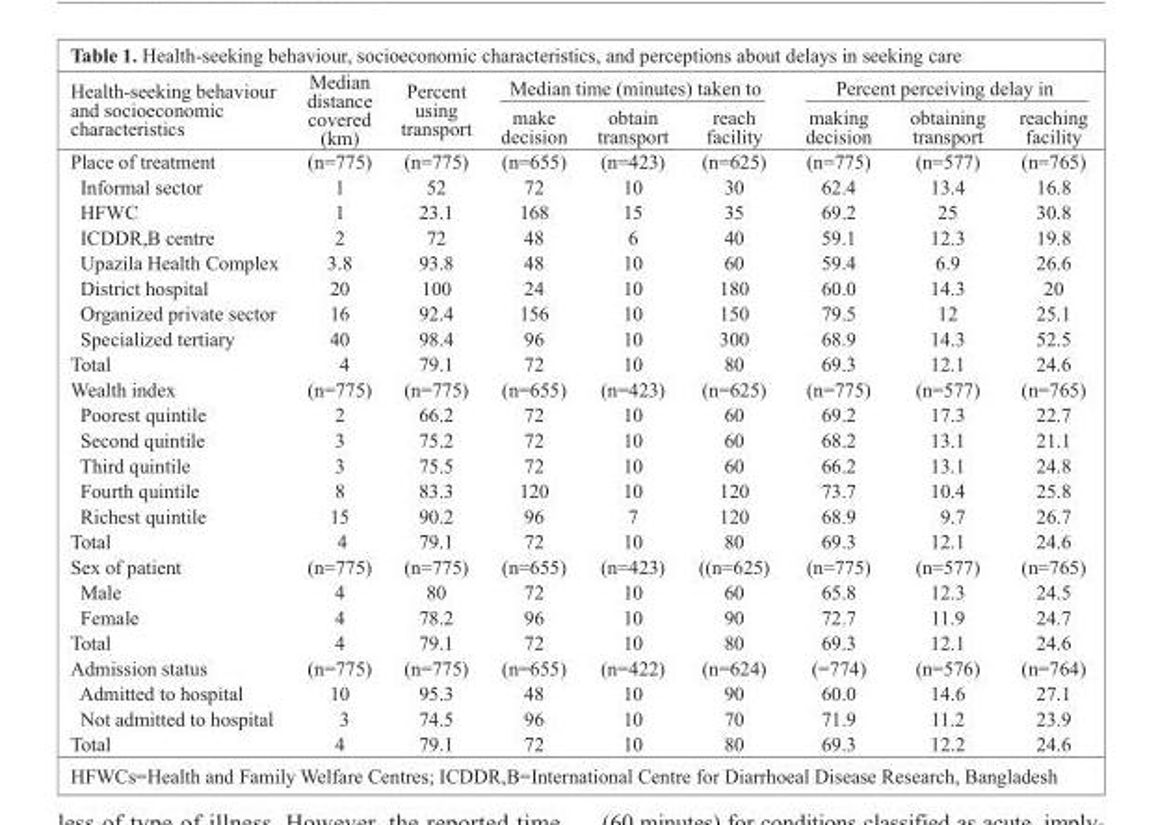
<table><thead><tr><td rowspan="2">Health-seeking behaviour and socioeconomic characteristics</td><td rowspan="2">Median distance covered (km)</td><td rowspan="2">Percent using transport</td><td colspan="3">Median time (minutes) taken to</td><td colspan="3">Percent perceiving delay in</td></tr><tr><td>make decision</td><td>obtain transport</td><td>reach facility</td><td>making decision</td><td>obtaining transport</td><td>reaching facility</td></tr></thead><tbody><tr><td>Place of treatment</td><td>(n=775)</td><td>(n=775)</td><td>(n=655)</td><td>(n=423)</td><td>(n=625)</td><td>(n=775)</td><td>(n=577)</td><td>(n=765)</td></tr><tr><td>Informal sector</td><td>1</td><td>52</td><td>72</td><td>10</td><td>30</td><td>62.4</td><td>13.4</td><td>16.8</td></tr><tr><td>HFWC</td><td>1</td><td>23.1</td><td>168</td><td>15</td><td>35</td><td>69.2</td><td>25</td><td>30.8</td></tr><tr><td>ICDDR,B centre</td><td>2</td><td>72</td><td>48</td><td>6</td><td>40</td><td>59.1</td><td>12.3</td><td>19.8</td></tr><tr><td>Upazila Health Complex</td><td>3.8</td><td>93.8</td><td>48</td><td>10</td><td>60</td><td>59.4</td><td>6.9</td><td>26.6</td></tr><tr><td>District hospital</td><td>20</td><td>100</td><td>24</td><td>10</td><td>180</td><td>60.0</td><td>14.3</td><td>20</td></tr><tr><td>Organized private sector</td><td>16</td><td>92.4</td><td>156</td><td>10</td><td>150</td><td>79.5</td><td>12</td><td>25.1</td></tr><tr><td>Specialized tertiary</td><td>40</td><td>98.4</td><td>96</td><td>10</td><td>300</td><td>68.9</td><td>14.3</td><td>52.5</td></tr><tr><td>Total</td><td>4</td><td>79.1</td><td>72</td><td>10</td><td>80</td><td>69.3</td><td>12.1</td><td>24.6</td></tr><tr><td>Wealth index</td><td>(n=775)</td><td>(n=775)</td><td>(n=655)</td><td>(n=423)</td><td>(n=625)</td><td>(n=775)</td><td>(n=577)</td><td>(n=765)</td></tr><tr><td>Poorest quintile</td><td>2</td><td>66.2</td><td>72</td><td>10</td><td>60</td><td>69.2</td><td>17.3</td><td>22.7</td></tr><tr><td>Second quintile</td><td>3</td><td>75.2</td><td>72</td><td>10</td><td>60</td><td>68.2</td><td>13.1</td><td>21.1</td></tr><tr><td>Third quintile</td><td>3</td><td>75.5</td><td>72</td><td>10</td><td>60</td><td>66.2</td><td>13.1</td><td>24.8</td></tr><tr><td>Fourth quintile</td><td>8</td><td>83.3</td><td>120</td><td>10</td><td>120</td><td>73.7</td><td>10.4</td><td>25.8</td></tr><tr><td>Richest quintile</td><td>15</td><td>90.2</td><td>96</td><td>7</td><td>120</td><td>68.9</td><td>9.7</td><td>26.7</td></tr><tr><td>Total</td><td>4</td><td>79.1</td><td>72</td><td>10</td><td>80</td><td>69.3</td><td>12.1</td><td>24.6</td></tr><tr><td>Sex of patient</td><td>(n=775)</td><td>(n=775)</td><td>(n=655)</td><td>(n=423)</td><td>((n=625)</td><td>(n=775)</td><td>(n=577)</td><td>(n=765)</td></tr><tr><td>Male</td><td>4</td><td>80</td><td>72</td><td>10</td><td>60</td><td>65.8</td><td>12.3</td><td>24.5</td></tr><tr><td>Female</td><td>4</td><td>78.2</td><td>96</td><td>10</td><td>90</td><td>72.7</td><td>11.9</td><td>24.7</td></tr><tr><td>Total</td><td>4</td><td>79.1</td><td>72</td><td>10</td><td>80</td><td>69.3</td><td>12.1</td><td>24.6</td></tr><tr><td>Admission status</td><td>(n=775)</td><td>(n=775)</td><td>(n=655)</td><td>(n=422)</td><td>(n=624)</td><td>(=774)</td><td>(n=576)</td><td>(n=764)</td></tr><tr><td>Admitted to hospital</td><td>10</td><td>95.3</td><td>48</td><td>10</td><td>90</td><td>60.0</td><td>14.6</td><td>27.1</td></tr><tr><td>Not admitted to hospital</td><td>3</td><td>74.5</td><td>96</td><td>10</td><td>70</td><td>71.9</td><td>11.2</td><td>23.9</td></tr><tr><td>Total</td><td>4</td><td>79.1</td><td>72</td><td>10</td><td>80</td><td>69.3</td><td>12.2</td><td>24.6</td></tr></tbody></table>